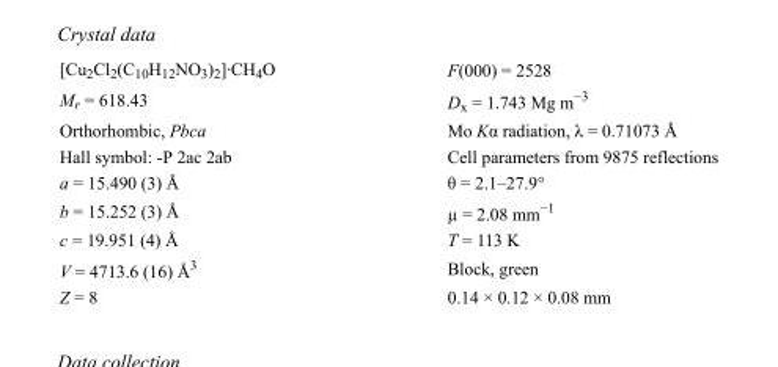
<table><tbody><tr><td>[Cu<sub>2</sub>Cl<sub>2</sub>(C<sub>10</sub>H<sub>12</sub>NO<sub>3</sub>)<sub>2</sub>]·CH<sub>4</sub>O</td><td>F(000) = 2528</td></tr><tr><td>M<sub>r</sub> = 618.43</td><td>D<sub>x</sub> = 1.743 Mg m<sup>−3</sup></td></tr><tr><td>Orthorhombic, Pbca</td><td>Mo Kα radiation, λ = 0.71073 Å</td></tr><tr><td>Hall symbol: -P 2ac 2ab</td><td>Cell parameters from 9875 reflections</td></tr><tr><td>a = 15.490 (3) Å</td><td>θ = 2.1–27.9°</td></tr><tr><td>b = 15.252 (3) Å</td><td>µ = 2.08 mm<sup>−1</sup></td></tr><tr><td>c = 19.951 (4) Å</td><td>T = 113 K</td></tr><tr><td>V = 4713.6 (16) Å<sup>3</sup></td><td>Block, green</td></tr><tr><td>Z = 8</td><td>0.14 × 0.12 × 0.08 mm</td></tr></tbody></table>